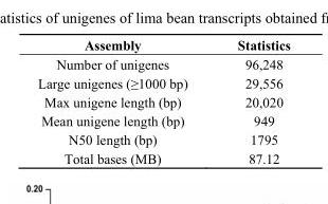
<table><thead><tr><td>Assembly</td><td>Statistics</td></tr></thead><tbody><tr><td>Number of unigenes</td><td>96,248</td></tr><tr><td>Large unigenes (≥1000 bp)</td><td>29,556</td></tr><tr><td>Max unigene length (bp)</td><td>20,020</td></tr><tr><td>Mean unigene length (bp)</td><td>949</td></tr><tr><td>N50 length (bp)</td><td>1795</td></tr><tr><td>Total bases (MB)</td><td>87.12</td></tr></tbody></table>